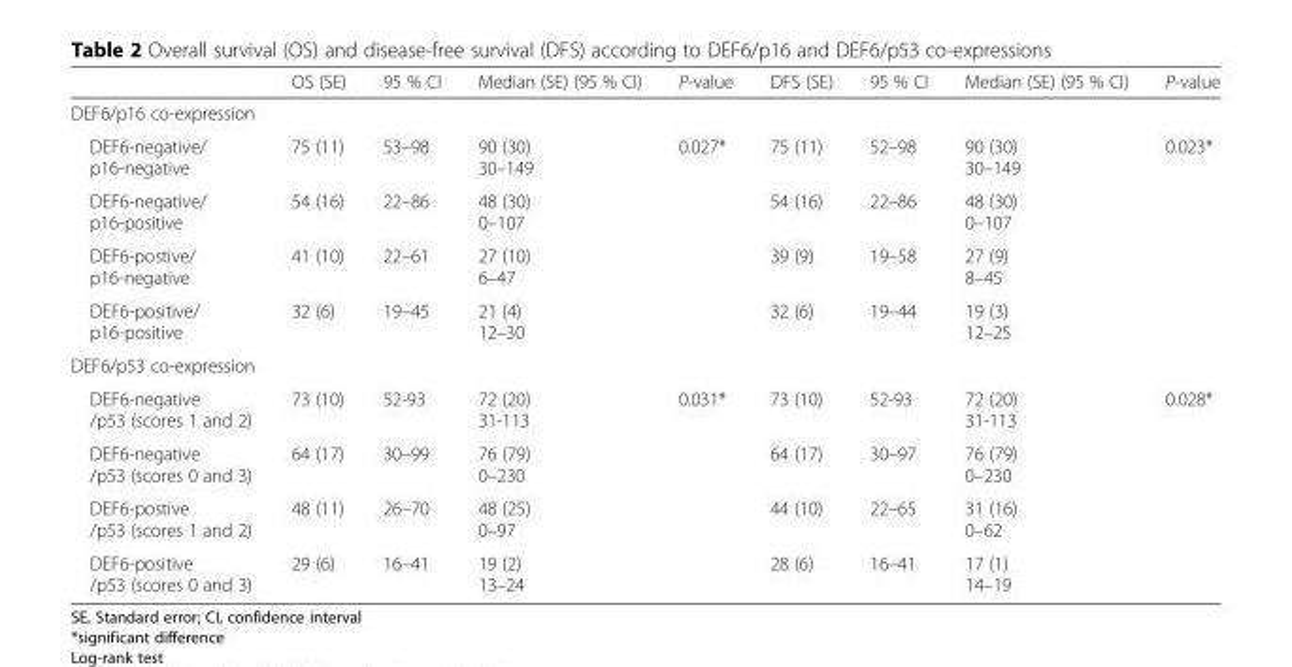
<table><thead><tr><td></td><td>OS (SE)</td><td>95 % CI</td><td>Median (SE) (95 % CI)</td><td>P-value</td><td>DFS (SE)</td><td>95 % CI</td><td>Median (SE) (95 % CI)</td><td>P-value</td></tr></thead><tbody><tr><td colspan="9">DEF6/p16 co-expression</td></tr><tr><td>DEF6-negative/ p16-negative</td><td>75 (11)</td><td>53–98</td><td>90 (30) 30–149</td><td>0.027*</td><td>75 (11)</td><td>52–98</td><td>90 (30) 30–149</td><td>0.023*</td></tr><tr><td>DEF6-negative/ p16-positive</td><td>54 (16)</td><td>22–86</td><td>48 (30) 0–107</td><td></td><td>54 (16)</td><td>22–86</td><td>48 (30) 0–107</td><td></td></tr><tr><td>DEF6-postive/ p16-negative</td><td>41 (10)</td><td>22–61</td><td>27 (10) 6–47</td><td></td><td>39 (9)</td><td>19–58</td><td>27 (9) 8–45</td><td></td></tr><tr><td>DEF6-positive/ p16-positive</td><td>32 (6)</td><td>19–45</td><td>21 (4) 12–30</td><td></td><td>32 (6)</td><td>19–44</td><td>19 (3) 12–25</td><td></td></tr><tr><td colspan="9">DEF6/p53 co-expression</td></tr><tr><td>DEF6-negative /p53 (scores 1 and 2)</td><td>73 (10)</td><td>52-93</td><td>72 (20) 31-113</td><td>0.031*</td><td>73 (10)</td><td>52-93</td><td>72 (20) 31-113</td><td>0.028*</td></tr><tr><td>DEF6-negative /p53 (scores 0 and 3)</td><td>64 (17)</td><td>30–99</td><td>76 (79) 0–230</td><td></td><td>64 (17)</td><td>30–97</td><td>76 (79) 0–230</td><td></td></tr><tr><td>DEF6-postive /p53 (scores 1 and 2)</td><td>48 (11)</td><td>26–70</td><td>48 (25) 0–97</td><td></td><td>44 (10)</td><td>22–65</td><td>31 (16) 0–62</td><td></td></tr><tr><td>DEF6-positive /p53 (scores 0 and 3)</td><td>29 (6)</td><td>16–41</td><td>19 (2) 13–24</td><td></td><td>28 (6)</td><td>16–41</td><td>17 (1) 14–19</td><td></td></tr></tbody></table>